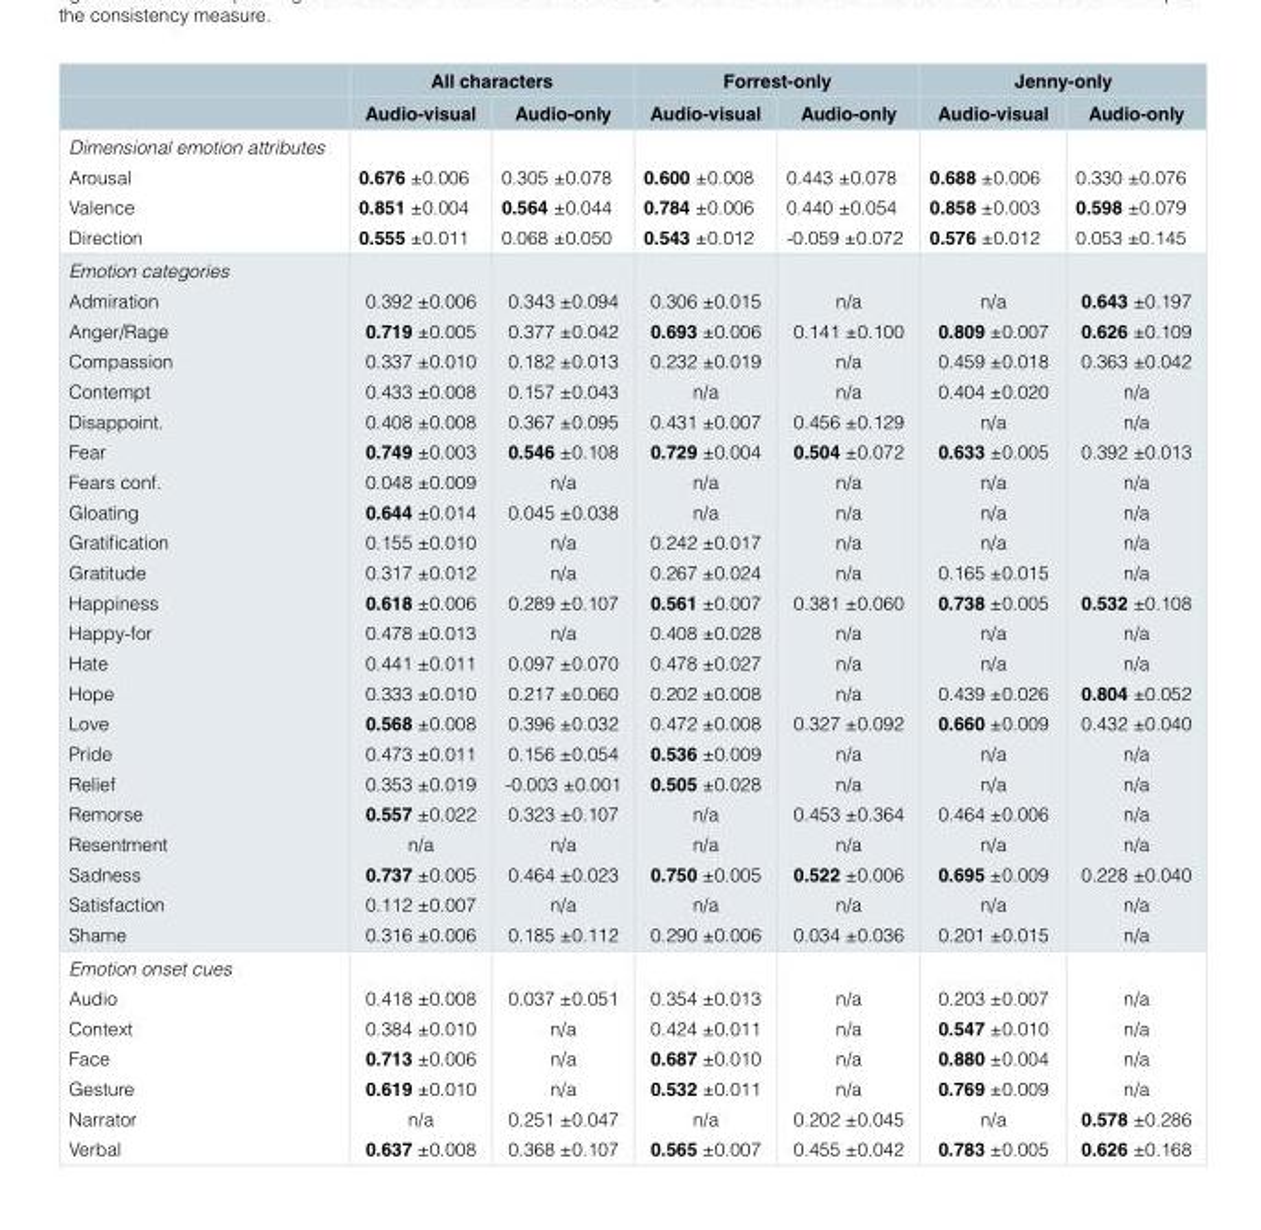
<table><thead><tr><td rowspan="2"></td><td colspan="2">All characters</td><td colspan="2">Forrest-only</td><td colspan="2">Jenny-only</td></tr><tr><td>Audio-visual</td><td>Audio-only</td><td>Audio-visual</td><td>Audio-only</td><td>Audio-visual</td><td>Audio-only</td></tr></thead><tbody><tr><td>Dimensional emotion attributes Arousal Valence Direction</td><td>0.676 ±0.006 0.851 ±0.004 0.555 ±0.011</td><td>0.305 ±0.078 0.564 ±0.044 0.068 ±0.050</td><td>0.600 ±0.008 0.784 ±0.006 0.543 ±0.012</td><td>0.443 ±0.078 0.440 ±0.054 -0.059 ±0.072</td><td>0.688 ±0.006 0.858 ±0.003 0.576 ±0.012</td><td>0.330 ±0.076 0.598 ±0.079 0.053 ±0.145</td></tr><tr><td>Emotion categories Admiration Anger/Rage Compassion Contempt Disappoint. Fear Fears conf. Gloating Gratification Gratitude Happiness Happy-for Hate Hope Love Pride Relief Remorse Resentment Sadness Satisfaction Shame</td><td>0.392 ±0.006 0.719 ±0.005 0.337 ±0.010 0.433 ±0.008 0.408 ±0.008 0.749 ±0.003 0.048 ±0.009 0.644 ±0.014 0.155 ±0.010 0.317 ±0.012 0.618 ±0.006 0.478 ±0.013 0.441 ±0.011 0.333 ±0.010 0.568 ±0.008 0.473 ±0.011 0.353 ±0.019 0.557 ±0.022 n/a 0.737 ±0.005 0.112 ±0.007 0.316 ±0.006</td><td>0.343 ±0.094 0.377 ±0.042 0.182 ±0.013 0.157 ±0.043 0.367 ±0.095 0.546 ±0.108 n/a 0.045 ±0.038 n/a n/a 0.289 ±0.107 n/a 0.097 ±0.070 0.217 ±0.060 0.396 ±0.032 0.156 ±0.054 -0.003 ±0.001 0.323 ±0.107 n/a 0.464 ±0.023 n/a 0.185 ±0.112</td><td>0.306 ±0.015 0.693 ±0.006 0.232 ±0.019 n/a 0.431 ±0.007 0.729 ±0.004 n/a n/a 0.242 ±0.017 0.267 ±0.024 0.561 ±0.007 0.408 ±0.028 0.478 ±0.027 0.202 ±0.008 0.472 ±0.008 0.536 ±0.009 0.505 ±0.028 n/a n/a 0.750 ±0.005 n/a 0.290 ±0.006</td><td>n/a 0.141 ±0.100 n/a n/a 0.456 ±0.129 0.504 ±0.072 n/a n/a n/a n/a 0.381 ±0.060 n/a n/a n/a 0.327 ±0.092 n/a n/a 0.453 ±0.364 n/a 0.522 ±0.006 n/a 0.034 ±0.036</td><td>n/a 0.809 ±0.007 0.459 ±0.018 0.404 ±0.020 n/a 0.633 ±0.005 n/a n/a n/a 0.165 ±0.015 0.738 ±0.005 n/a n/a 0.439 ±0.026 0.660 ±0.009 n/a n/a 0.464 ±0.006 n/a 0.695 ±0.009 n/a 0.201 ±0.015</td><td>0.643 ±0.197 0.626 ±0.109 0.363 ±0.042 n/a n/a 0.392 ±0.013 n/a n/a n/a n/a 0.532 ±0.108 n/a n/a 0.804 ±0.052 0.432 ±0.040 n/a n/a n/a n/a 0.228 ±0.040 n/a n/a</td></tr><tr><td>Emotion onset cues Audio Context Face Gesture Narrator Verbal</td><td>0.418 ±0.008 0.384 ±0.010 0.713 ±0.006 0.619 ±0.010 n/a 0.637 ±0.008</td><td>0.037 ±0.051 n/a n/a n/a 0.251 ±0.047 0.368 ±0.107</td><td>0.354 ±0.013 0.424 ±0.011 0.687 ±0.010 0.532 ±0.011 n/a 0.565 ±0.007</td><td>n/a n/a n/a n/a 0.202 ±0.045 0.455 ±0.042</td><td>0.203 ±0.007 0.547 ±0.010 0.880 ±0.004 0.769 ±0.009 n/a 0.783 ±0.005</td><td>n/a n/a n/a n/a 0.578 ±0.286 0.626 ±0.168</td></tr></tbody></table>